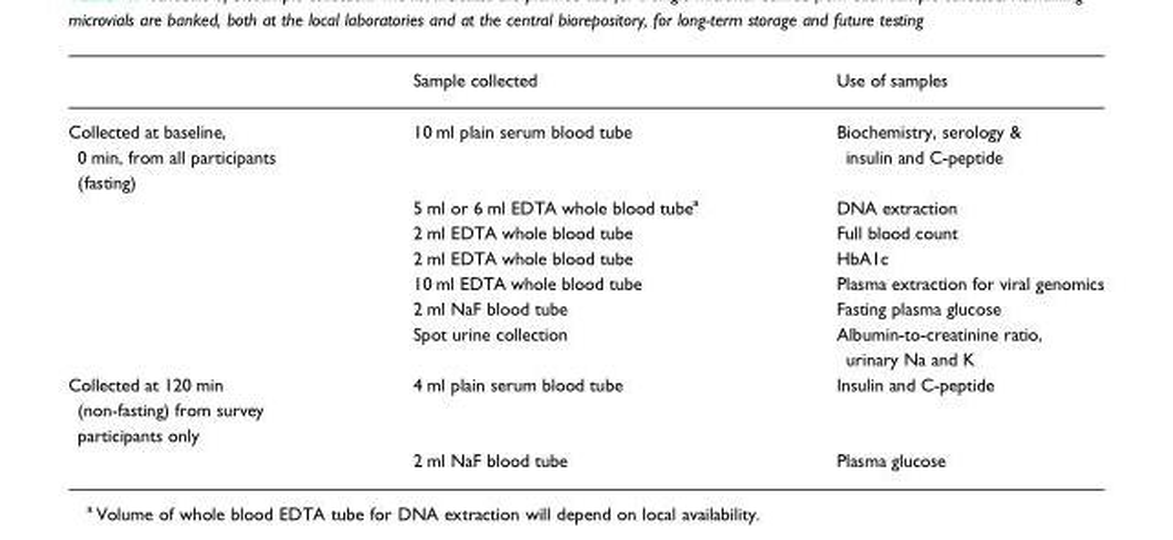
<table><thead><tr><td></td><td>Sample collected</td><td>Use of samples</td></tr></thead><tbody><tr><td rowspan="7">Collected at baseline, 0 min, from all participants (fasting)</td><td>10 ml plain serum blood tube</td><td>Biochemistry, serology &amp; insulin and C-peptide</td></tr><tr><td>5 ml or 6 ml EDTA whole blood tube<sup>a</sup></td><td>DNA extraction</td></tr><tr><td>2 ml EDTA whole blood tube</td><td>Full blood count</td></tr><tr><td>2 ml EDTA whole blood tube</td><td>HbA1c</td></tr><tr><td>10 ml EDTA whole blood tube</td><td>Plasma extraction for viral genomics</td></tr><tr><td>2 ml NaF blood tube</td><td>Fasting plasma glucose</td></tr><tr><td>Spot urine collection</td><td>Albumin-to-creatinine ratio, urinary Na and K</td></tr><tr><td rowspan="2">Collected at 120 min (non-fasting) from survey participants only</td><td>4 ml plain serum blood tube</td><td>Insulin and C-peptide</td></tr><tr><td>2 ml NaF blood tube</td><td>Plasma glucose</td></tr></tbody></table>